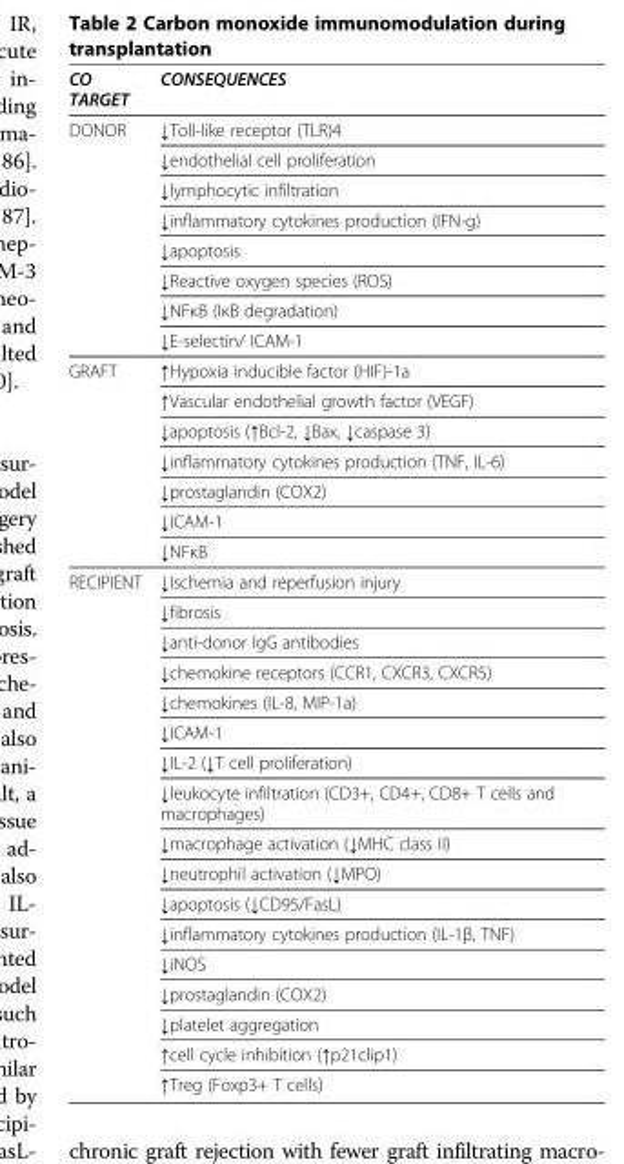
<table><thead><tr><td>CO TARGET</td><td>CONSEQUENCES</td></tr></thead><tbody><tr><td rowspan="8">DONOR</td><td>↓Toll-like receptor (TLR)4</td></tr><tr><td>↓endothelial cell proliferation</td></tr><tr><td>↓lymphocytic infiltration</td></tr><tr><td>↓inflammatory cytokines production (IFN-g)</td></tr><tr><td>↓apoptosis</td></tr><tr><td>↓Reactive oxygen species (ROS)</td></tr><tr><td>↓NFκB (IκB degradation)</td></tr><tr><td>↓E-selectin/ ICAM-1</td></tr><tr><td rowspan="7">GRAFT</td><td>↑Hypoxia inducible factor (HIF)-1a</td></tr><tr><td>↑Vascular endothelial growth factor (VEGF)</td></tr><tr><td>↓apoptosis (↑Bcl-2, ↓Bax, ↓caspase 3)</td></tr><tr><td>↓inflammatory cytokines production (TNF, IL-6)</td></tr><tr><td>↓prostaglandin (COX2)</td></tr><tr><td>↓ICAM-1</td></tr><tr><td>↓NFκB</td></tr><tr><td rowspan="17">RECIPIENT</td><td>↓Ischemia and reperfusion injury</td></tr><tr><td>↓fibrosis</td></tr><tr><td>↓anti-donor IgG antibodies</td></tr><tr><td>↓chemokine receptors (CCR1, CXCR3, CXCR5)</td></tr><tr><td>↓chemokines (IL-8, MIP-1a)</td></tr><tr><td>↓ICAM-1</td></tr><tr><td>↓IL-2 (↓T cell proliferation)</td></tr><tr><td>↓leukocyte infiltration (CD3+, CD4+, CD8+ T cells and macrophages)</td></tr><tr><td>↓macrophage activation (↓MHC class II)</td></tr><tr><td>↓neutrophil activation (↓MPO)</td></tr><tr><td>↓apoptosis (↓CD95/FasL)</td></tr><tr><td>↓inflammatory cytokines production (IL-1β, TNF)</td></tr><tr><td>↓iNOS</td></tr><tr><td>↓prostaglandin (COX2)</td></tr><tr><td>↓platelet aggregation</td></tr><tr><td>↑cell cycle inhibition (↑p21clip1)</td></tr><tr><td>↑Treg (Foxp3+ T cells)</td></tr></tbody></table>